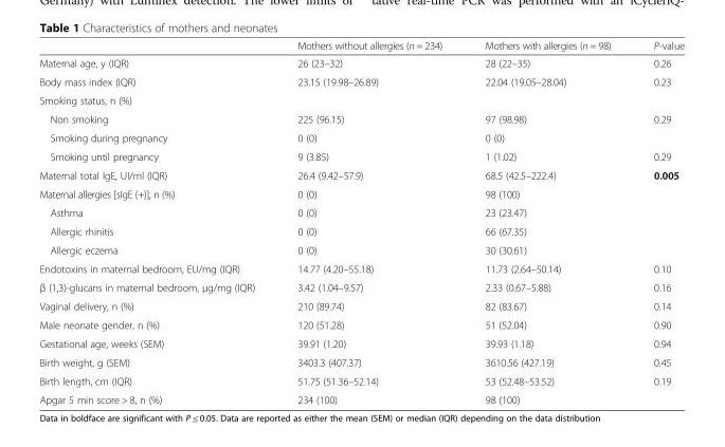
<table><thead><tr><td></td><td>Mothers without allergies (n = 234)</td><td>Mothers with allergies (n = 98)</td><td>P-value</td></tr></thead><tbody><tr><td>Maternal age, y (IQR)</td><td>26 (23–32)</td><td>28 (22–35)</td><td>0.26</td></tr><tr><td>Body mass index (IQR)</td><td>23.15 (19.98–26.89)</td><td>22.04 (19.05–28.04)</td><td>0.23</td></tr><tr><td colspan="4">Smoking status, n (%)</td></tr><tr><td>Non smoking</td><td>225 (96.15)</td><td>97 (98.98)</td><td>0.29</td></tr><tr><td>Smoking during pregnancy</td><td>0 (0)</td><td>0 (0)</td><td></td></tr><tr><td>Smoking until pregnancy</td><td>9 (3.85)</td><td>1 (1.02)</td><td>0.29</td></tr><tr><td>Maternal total IgE, UI/ml (IQR)</td><td>26.4 (9.42–57.9)</td><td>68.5 (42.5–222.4)</td><td>0.005</td></tr><tr><td>Maternal allergies [sIgE (+)], n (%)</td><td>0 (0)</td><td>98 (100)</td><td></td></tr><tr><td>Asthma</td><td>0 (0)</td><td>23 (23.47)</td><td></td></tr><tr><td>Allergic rhinitis</td><td>0 (0)</td><td>66 (67.35)</td><td></td></tr><tr><td>Allergic eczema</td><td>0 (0)</td><td>30 (30.61)</td><td></td></tr><tr><td>Endotoxins in maternal bedroom, EU/mg (IQR)</td><td>14.77 (4.20–55.18)</td><td>11.73 (2.64–50.14)</td><td>0.10</td></tr><tr><td>β (1,3)-glucans in maternal bedroom, μg/mg (IQR)</td><td>3.42 (1.04–9.57)</td><td>2.33 (0.67–5.88)</td><td>0.16</td></tr><tr><td>Vaginal delivery, n (%)</td><td>210 (89.74)</td><td>82 (83.67)</td><td>0.14</td></tr><tr><td>Male neonate gender, n (%)</td><td>120 (51.28)</td><td>51 (52.04)</td><td>0.90</td></tr><tr><td>Gestational age, weeks (SEM)</td><td>39.91 (1.20)</td><td>39.93 (1.18)</td><td>0.94</td></tr><tr><td>Birth weight, g (SEM)</td><td>3403.3 (407.37)</td><td>3610.56 (427.19)</td><td>0.45</td></tr><tr><td>Birth length, cm (IQR)</td><td>51.75 (51.36–52.14)</td><td>53 (52.48–53.52)</td><td>0.19</td></tr><tr><td>Apgar 5 min score &gt; 8, n (%)</td><td>234 (100)</td><td>98 (100)</td><td></td></tr></tbody></table>